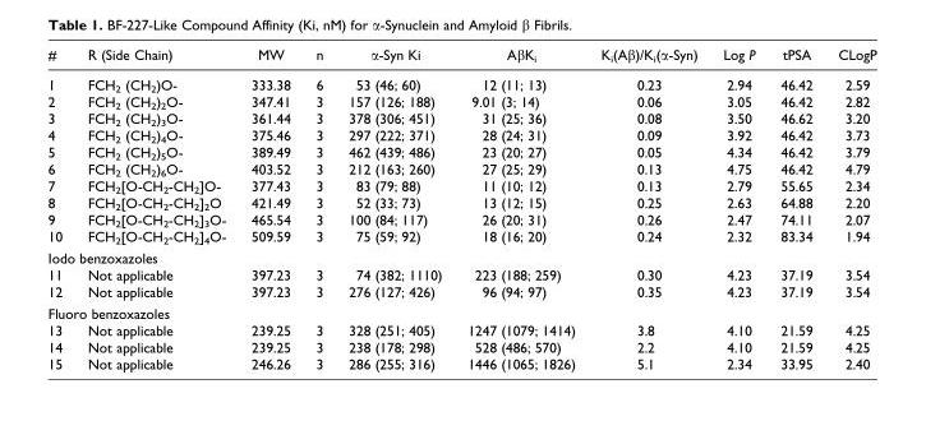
<table><thead><tr><td>#</td><td>R (Side Chain)</td><td>MW</td><td>n</td><td>α-Syn Ki</td><td>AβK<sub>i</sub></td><td>K<sub>i</sub>(Aβ)/K<sub>i</sub>(α-Syn)</td><td>Log P</td><td>tPSA</td><td>CLogP</td></tr></thead><tbody><tr><td>1</td><td>FCH<sub>2</sub> (CH<sub>2</sub>)O-</td><td>333.38</td><td>6</td><td>53 (46; 60)</td><td>12 (11; 13)</td><td>0.23</td><td>2.94</td><td>46.42</td><td>2.59</td></tr><tr><td>2</td><td>FCH<sub>2</sub> (CH<sub>2</sub>)<sub>2</sub>O-</td><td>347.41</td><td>3</td><td>157 (126; 188)</td><td>9.01 (3; 14)</td><td>0.06</td><td>3.05</td><td>46.42</td><td>2.82</td></tr><tr><td>3</td><td>FCH<sub>2</sub> (CH<sub>2</sub>)<sub>3</sub>O-</td><td>361.44</td><td>3</td><td>378 (306; 451)</td><td>31 (25; 36)</td><td>0.08</td><td>3.50</td><td>46.62</td><td>3.20</td></tr><tr><td>4</td><td>FCH<sub>2</sub> (CH<sub>2</sub>)<sub>4</sub>O-</td><td>375.46</td><td>3</td><td>297 (222; 371)</td><td>28 (24; 31)</td><td>0.09</td><td>3.92</td><td>46.42</td><td>3.73</td></tr><tr><td>5</td><td>FCH<sub>2</sub> (CH<sub>2</sub>)<sub>5</sub>O-</td><td>389.49</td><td>3</td><td>462 (439; 486)</td><td>23 (20; 27)</td><td>0.05</td><td>4.34</td><td>46.42</td><td>3.79</td></tr><tr><td>6</td><td>FCH<sub>2</sub> (CH<sub>2</sub>)<sub>6</sub>O-</td><td>403.52</td><td>3</td><td>212 (163; 260)</td><td>27 (25; 29)</td><td>0.13</td><td>4.75</td><td>46.42</td><td>4.79</td></tr><tr><td>7</td><td>FCH<sub>2</sub>[O-CH<sub>2</sub>-CH<sub>2</sub>]O-</td><td>377.43</td><td>3</td><td>83 (79; 88)</td><td>11 (10; 12)</td><td>0.13</td><td>2.79</td><td>55.65</td><td>2.34</td></tr><tr><td>8</td><td>FCH<sub>2</sub>[O-CH<sub>2</sub>-CH<sub>2</sub>]<sub>2</sub>O</td><td>421.49</td><td>3</td><td>52 (33; 73)</td><td>13 (12; 15)</td><td>0.25</td><td>2.63</td><td>64.88</td><td>2.20</td></tr><tr><td>9</td><td>FCH<sub>2</sub>[O-CH<sub>2</sub>-CH<sub>2</sub>]<sub>3</sub>O-</td><td>465.54</td><td>3</td><td>100 (84; 117)</td><td>26 (20; 31)</td><td>0.26</td><td>2.47</td><td>74.11</td><td>2.07</td></tr><tr><td>10</td><td>FCH<sub>2</sub>[O-CH<sub>2</sub>-CH<sub>2</sub>]<sub>4</sub>O-</td><td>509.59</td><td>3</td><td>75 (59; 92)</td><td>18 (16; 20)</td><td>0.24</td><td>2.32</td><td>83.34</td><td>1.94</td></tr><tr><td colspan="10">Iodo benzoxazoles</td></tr><tr><td>11</td><td>Not applicable</td><td>397.23</td><td>3</td><td>74 (382; 1110)</td><td>223 (188; 259)</td><td>0.30</td><td>4.23</td><td>37.19</td><td>3.54</td></tr><tr><td>12</td><td>Not applicable</td><td>397.23</td><td>3</td><td>276 (127; 426)</td><td>96 (94; 97)</td><td>0.35</td><td>4.23</td><td>37.19</td><td>3.54</td></tr><tr><td colspan="10">Fluoro benzoxazoles</td></tr><tr><td>13</td><td>Not applicable</td><td>239.25</td><td>3</td><td>328 (251; 405)</td><td>1247 (1079; 1414)</td><td>3.8</td><td>4.10</td><td>21.59</td><td>4.25</td></tr><tr><td>14</td><td>Not applicable</td><td>239.25</td><td>3</td><td>238 (178; 298)</td><td>528 (486; 570)</td><td>2.2</td><td>4.10</td><td>21.59</td><td>4.25</td></tr><tr><td>15</td><td>Not applicable</td><td>246.26</td><td>3</td><td>286 (255; 316)</td><td>1446 (1065; 1826)</td><td>5.1</td><td>2.34</td><td>33.95</td><td>2.40</td></tr></tbody></table>